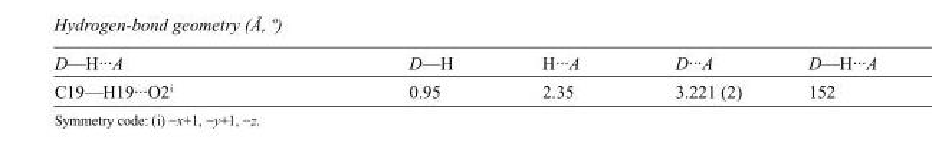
<table><tbody><tr><td>D—H···A</td><td>D—H</td><td>H···A</td><td>D···A</td><td>D—H···A</td></tr><tr><td>C19—H19···O2<sup>i</sup></td><td>0.95</td><td>2.35</td><td>3.221 (2)</td><td>152</td></tr></tbody></table>